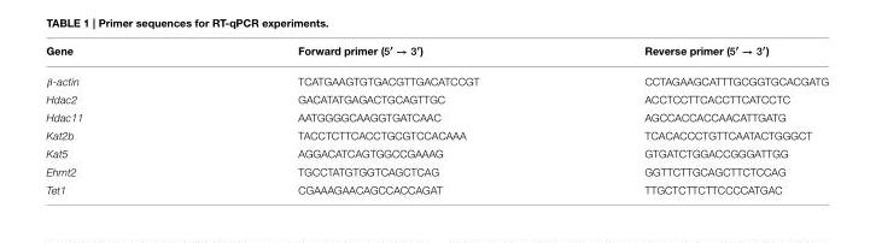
<table><thead><tr><td>Gene</td><td>Forward primer (5<sup>′</sup> → 3<sup>′</sup>)</td><td>Reverse primer (5<sup>′</sup> → 3<sup>′</sup>)</td></tr></thead><tbody><tr><td>β-actin</td><td>TCATGAAGTGTGACGTTGACATCCGT</td><td>CCTAGAAGCATTTGCGGTGCACGATG</td></tr><tr><td>Hdac2</td><td>GACATATGAGACTGCAGTTGC</td><td>ACCTCCTTCACCTTCATCCTC</td></tr><tr><td>Hdac11</td><td>AATGGGGCAAGGTGATCAAC</td><td>AGCCACCACCAACATTGATG</td></tr><tr><td>Kat2b</td><td>TACCTCTTCACCTGCGTCCACAAA</td><td>TCACACCCTGTTCAATACTGGGCT</td></tr><tr><td>Kat5</td><td>AGGACATCAGTGGCCGAAAG</td><td>GTGATCTGGACCGGGATTGG</td></tr><tr><td>Ehmt2</td><td>TGCCTATGTGGTCAGCTCAG</td><td>GGTTCTTGCAGCTTCTCCAG</td></tr><tr><td>Tet1</td><td>CGAAAGAACAGCCACCAGAT</td><td>TTGCTCTTCTTCCCCATGAC</td></tr></tbody></table>